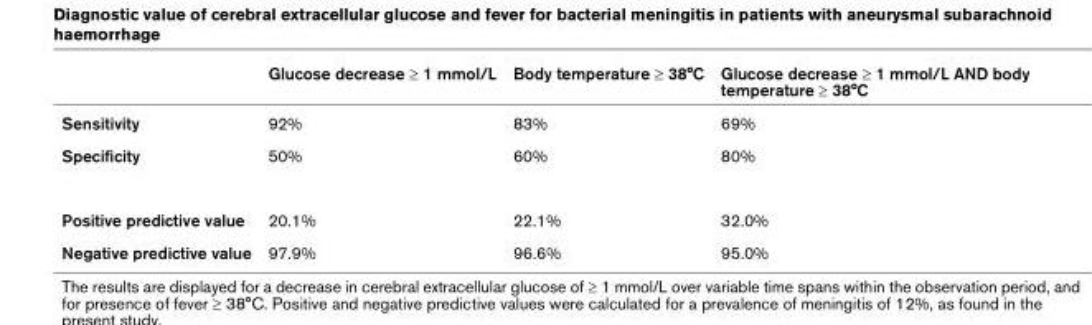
<table><thead><tr><td></td><td>Glucose decrease ≥ 1 mmol/L</td><td>Body temperature ≥ 38°C</td><td>Glucose decrease ≥ 1 mmol/L AND body temperature ≥ 38°C</td></tr></thead><tbody><tr><td>Sensitivity</td><td>92%</td><td>83%</td><td>69%</td></tr><tr><td>Specificity</td><td>50%</td><td>60%</td><td>80%</td></tr><tr><td>Positive predictive value</td><td>20.1%</td><td>22.1%</td><td>32.0%</td></tr><tr><td>Negative predictive value</td><td>97.9%</td><td>96.6%</td><td>95.0%</td></tr></tbody></table>